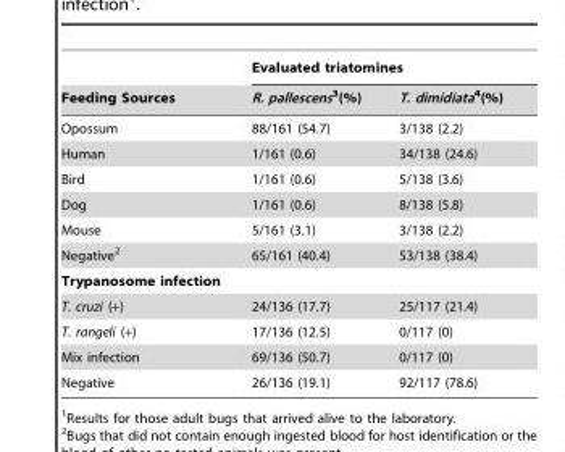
<table><thead><tr><td rowspan="2">Feeding Sources</td><td colspan="2">Evaluated triatomines</td></tr><tr><td>R. pallescens3(%)</td><td>T. dimidiata4(%)</td></tr></thead><tbody><tr><td>Opossum</td><td>88/161 (54.7)</td><td>3/138 (2.2)</td></tr><tr><td>Human</td><td>1/161 (0.6)</td><td>34/138 (24.6)</td></tr><tr><td>Bird</td><td>1/161 (0.6)</td><td>5/138 (3.6)</td></tr><tr><td>Dog</td><td>1/161 (0.6)</td><td>8/138 (5.8)</td></tr><tr><td>Mouse</td><td>5/161 (3.1)</td><td>3/138 (2.2)</td></tr><tr><td>Negative<sup>2</sup></td><td>65/161 (40.4)</td><td>53/138 (38.4)</td></tr><tr><td colspan="3">Trypanosome infection</td></tr><tr><td>T. cruzi (+)</td><td>24/136 (17.7)</td><td>25/117 (21.4)</td></tr><tr><td>T. rangeli (+)</td><td>17/136 (12.5)</td><td>0/117 (0)</td></tr><tr><td>Mix infection</td><td>69/136 (50.7)</td><td>0/117 (0)</td></tr><tr><td>Negative</td><td>26/136 (19.1)</td><td>92/117 (78.6)</td></tr></tbody></table>